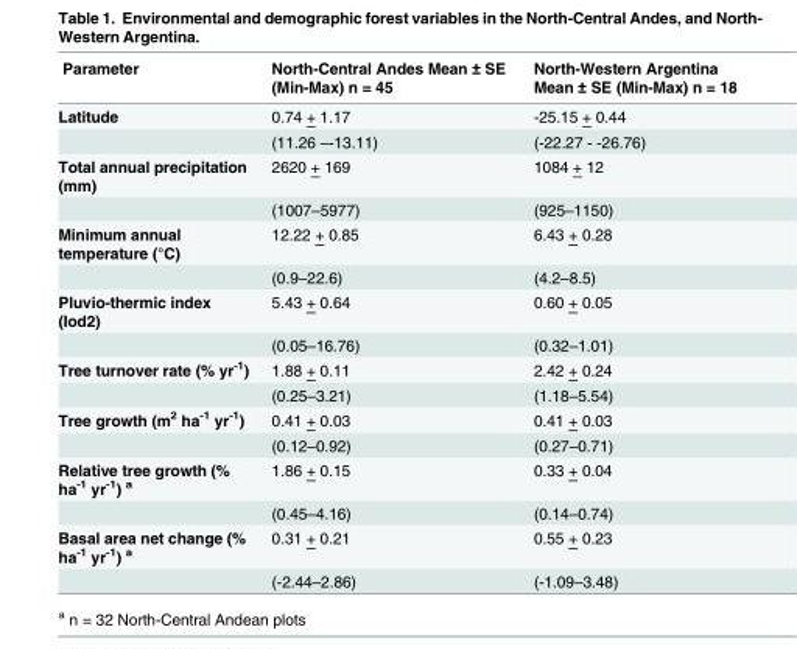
<table><thead><tr><td>Parameter</td><td>North-Central Andes Mean ± SE (Min-Max) n = 45</td><td>North-Western Argentina Mean ± SE (Min-Max) n = 18</td></tr></thead><tbody><tr><td rowspan="2">Latitude</td><td>0.74 + 1.17</td><td>-25.15 + 0.44</td></tr><tr><td>(11.26 –-13.11)</td><td>(-22.27 - -26.76)</td></tr><tr><td rowspan="2">Total annual precipitation (mm)</td><td>2620 + 169</td><td>1084 + 12</td></tr><tr><td>(1007–5977)</td><td>(925–1150)</td></tr><tr><td rowspan="2">Minimum annual temperature (°C)</td><td>12.22 + 0.85</td><td>6.43 + 0.28</td></tr><tr><td>(0.9–22.6)</td><td>(4.2–8.5)</td></tr><tr><td rowspan="2">Pluvio-thermic index (Iod2)</td><td>5.43 + 0.64</td><td>0.60 + 0.05</td></tr><tr><td>(0.05–16.76)</td><td>(0.32–1.01)</td></tr><tr><td rowspan="2">Tree turnover rate (% yr<sup>-1</sup>)</td><td>1.88 + 0.11</td><td>2.42 + 0.24</td></tr><tr><td>(0.25–3.21)</td><td>(1.18–5.54)</td></tr><tr><td rowspan="2">Tree growth (m<sup>2</sup> ha<sup>-1</sup> yr<sup>-1</sup>)</td><td>0.41 + 0.03</td><td>0.41 + 0.03</td></tr><tr><td>(0.12–0.92)</td><td>(0.27–0.71)</td></tr><tr><td rowspan="2">Relative tree growth (% ha<sup>-1</sup> yr<sup>-1</sup>) <sup>a</sup></td><td>1.86 + 0.15</td><td>0.33 + 0.04</td></tr><tr><td>(0.45–4.16)</td><td>(0.14–0.74)</td></tr><tr><td rowspan="2">Basal area net change (% ha<sup>-1</sup> yr<sup>-1</sup>) <sup>a</sup></td><td>0.31 + 0.21</td><td>0.55 + 0.23</td></tr><tr><td>(-2.44–2.86)</td><td>(-1.09–3.48)</td></tr></tbody></table>